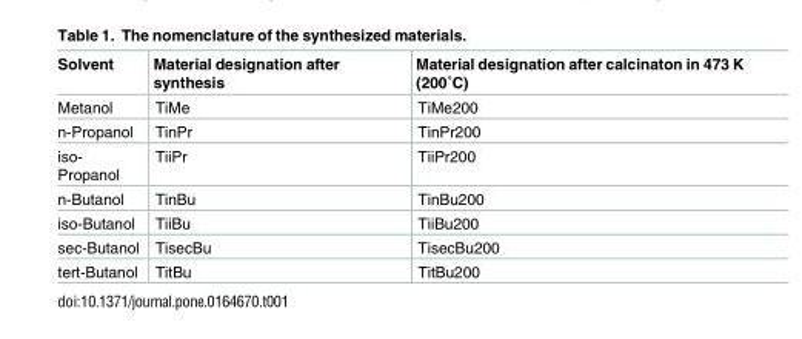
<table><thead><tr><td>Solvent</td><td>Material designation after synthesis</td><td>Material designation after calcinaton in 473 K (200˚C)</td></tr></thead><tbody><tr><td>Metanol</td><td>TiMe</td><td>TiMe200</td></tr><tr><td>n-Propanol</td><td>TinPr</td><td>TinPr200</td></tr><tr><td>iso- Propanol</td><td>TiiPr</td><td>TiiPr200</td></tr><tr><td>n-Butanol</td><td>TinBu</td><td>TinBu200</td></tr><tr><td>iso-Butanol</td><td>TiiBu</td><td>TiiBu200</td></tr><tr><td>sec-Butanol</td><td>TisecBu</td><td>TisecBu200</td></tr><tr><td>tert-Butanol</td><td>TitBu</td><td>TitBu200</td></tr></tbody></table>